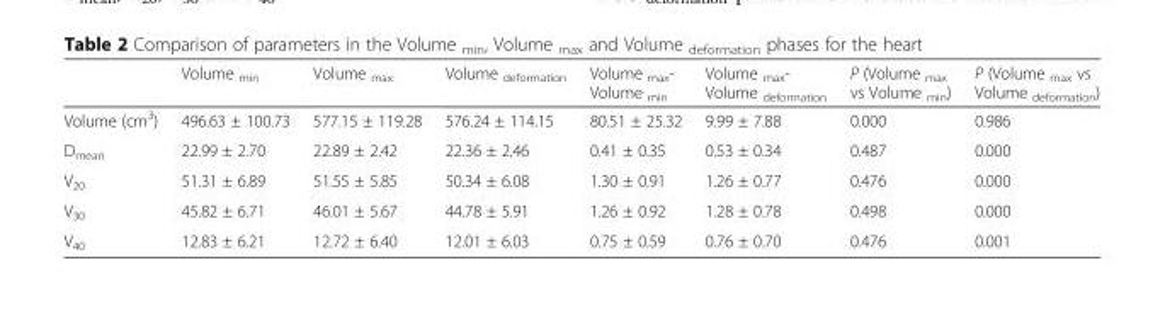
<table><thead><tr><td></td><td>Volume <sub>min</sub></td><td>Volume <sub>max</sub></td><td>Volume <sub>deformation</sub></td><td>Volume <sub>max</sub>- Volume <sub>min</sub></td><td>Volume <sub>max</sub>- Volume <sub>deformation</sub></td><td>P (Volume <sub>max</sub> vs Volume <sub>min</sub>)</td><td>P (Volume <sub>max</sub> vs Volume <sub>deformation</sub>)</td></tr></thead><tbody><tr><td>Volume (cm<sup>3</sup>)</td><td>496.63 ± 100.73</td><td>577.15 ± 119.28</td><td>576.24 ± 114.15</td><td>80.51 ± 25.32</td><td>9.99 ± 7.88</td><td>0.000</td><td>0.986</td></tr><tr><td>D<sub>mean</sub></td><td>22.99 ± 2.70</td><td>22.89 ± 2.42</td><td>22.36 ± 2.46</td><td>0.41 ± 0.35</td><td>0.53 ± 0.34</td><td>0.487</td><td>0.000</td></tr><tr><td>V<sub>20</sub></td><td>51.31 ± 6.89</td><td>51.55 ± 5.85</td><td>50.34 ± 6.08</td><td>1.30 ± 0.91</td><td>1.26 ± 0.77</td><td>0.476</td><td>0.000</td></tr><tr><td>V<sub>30</sub></td><td>45.82 ± 6.71</td><td>46.01 ± 5.67</td><td>44.78 ± 5.91</td><td>1.26 ± 0.92</td><td>1.28 ± 0.78</td><td>0.498</td><td>0.000</td></tr><tr><td>V<sub>40</sub></td><td>12.83 ± 6.21</td><td>12.72 ± 6.40</td><td>12.01 ± 6.03</td><td>0.75 ± 0.59</td><td>0.76 ± 0.70</td><td>0.476</td><td>0.001</td></tr></tbody></table>